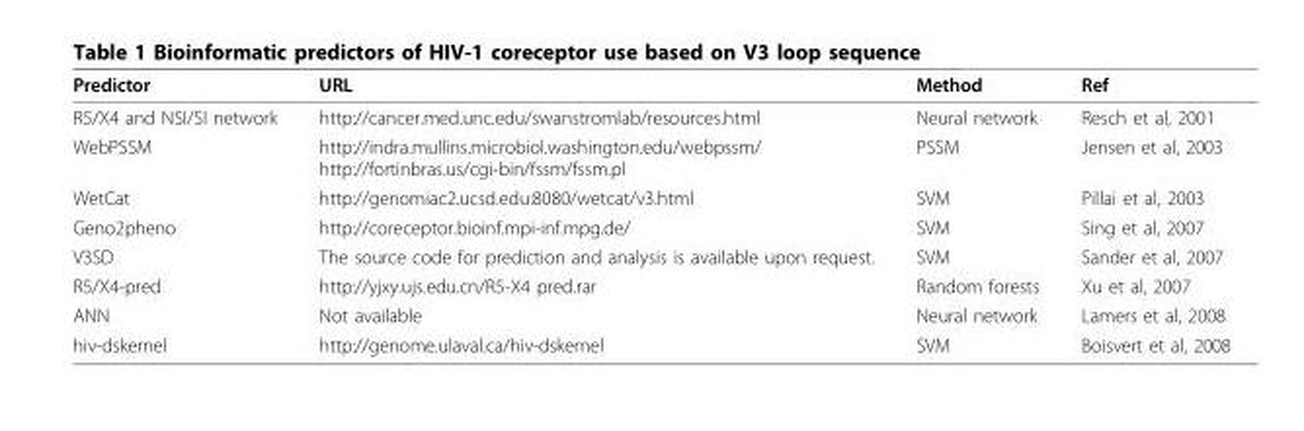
<table><thead><tr><td>Predictor</td><td>URL</td><td>Method</td><td>Ref</td></tr></thead><tbody><tr><td>R5/X4 and NSI/SI network</td><td>http://cancer.med.unc.edu/swanstromlab/resources.html</td><td>Neural network</td><td>Resch et al, 2001</td></tr><tr><td>WebPSSM</td><td>http://indra.mullins.microbiol.washington.edu/webpssm/ http://fortinbras.us/cgi-bin/fssm/fssm.pl</td><td>PSSM</td><td>Jensen et al, 2003</td></tr><tr><td>WetCat</td><td>http://genomiac2.ucsd.edu:8080/wetcat/v3.html</td><td>SVM</td><td>Pillai et al, 2003</td></tr><tr><td>Geno2pheno</td><td>http://coreceptor.bioinf.mpi-inf.mpg.de/</td><td>SVM</td><td>Sing et al, 2007</td></tr><tr><td>V3SD</td><td>The source code for prediction and analysis is available upon request.</td><td>SVM</td><td>Sander et al, 2007</td></tr><tr><td>R5/X4-pred</td><td>http://yjxy.ujs.edu.cn/R5-X4 pred.rar</td><td>Random forests</td><td>Xu et al, 2007</td></tr><tr><td>ANN</td><td>Not available</td><td>Neural network</td><td>Lamers et al, 2008</td></tr><tr><td>hiv-dskernel</td><td>http://genome.ulaval.ca/hiv-dskernel</td><td>SVM</td><td>Boisvert et al, 2008</td></tr></tbody></table>